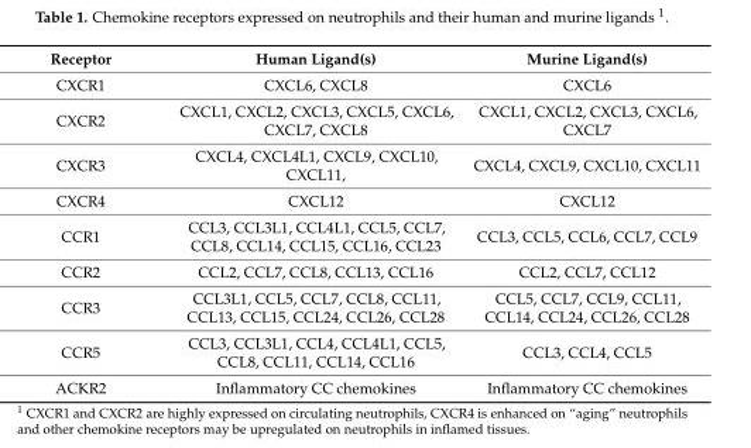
<table><thead><tr><td>Receptor</td><td>Human Ligand(s)</td><td>Murine Ligand(s)</td></tr></thead><tbody><tr><td>CXCR1</td><td>CXCL6, CXCL8</td><td>CXCL6</td></tr><tr><td>CXCR2</td><td>CXCL1, CXCL2, CXCL3, CXCL5, CXCL6, CXCL7, CXCL8</td><td>CXCL1, CXCL2, CXCL3, CXCL6, CXCL7</td></tr><tr><td>CXCR3</td><td>CXCL4, CXCL4L1, CXCL9, CXCL10, CXCL11,</td><td>CXCL4, CXCL9, CXCL10, CXCL11</td></tr><tr><td>CXCR4</td><td>CXCL12</td><td>CXCL12</td></tr><tr><td>CCR1</td><td>CCL3, CCL3L1, CCL4L1, CCL5, CCL7, CCL8, CCL14, CCL15, CCL16, CCL23</td><td>CCL3, CCL5, CCL6, CCL7, CCL9</td></tr><tr><td>CCR2</td><td>CCL2, CCL7, CCL8, CCL13, CCL16</td><td>CCL2, CCL7, CCL12</td></tr><tr><td>CCR3</td><td>CCL3L1, CCL5, CCL7, CCL8, CCL11, CCL13, CCL15, CCL24, CCL26, CCL28</td><td>CCL5, CCL7, CCL9, CCL11, CCL14, CCL24, CCL26, CCL28</td></tr><tr><td>CCR5</td><td>CCL3, CCL3L1, CCL4, CCL4L1, CCL5, CCL8, CCL11, CCL14, CCL16</td><td>CCL3, CCL4, CCL5</td></tr><tr><td>ACKR2</td><td>Inflammatory CC chemokines</td><td>Inflammatory CC chemokines</td></tr></tbody></table>